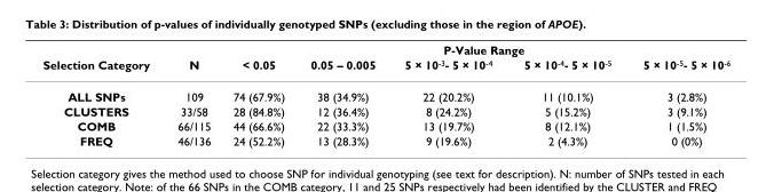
<table><thead><tr><td rowspan="2">Selection Category</td><td rowspan="2">N</td><td colspan="5">P-Value Range</td></tr><tr><td>&lt; 0.05</td><td>0.05 – 0.005</td><td>5 × 10<sup>-3</sup>- 5 × 10<sup>-4</sup></td><td>5 × 10<sup>-4</sup>- 5 × 10<sup>-5</sup></td><td>5 × 10<sup>-5</sup>- 5 × 10<sup>-6</sup></td></tr></thead><tbody><tr><td>ALL SNPs</td><td>109</td><td>74 (67.9%)</td><td>38 (34.9%)</td><td>22 (20.2%)</td><td>11 (10.1%)</td><td>3 (2.8%)</td></tr><tr><td>CLUSTERS</td><td>33/58</td><td>28 (84.8%)</td><td>12 (36.4%)</td><td>8 (24.2%)</td><td>5 (15.2%)</td><td>3 (9.1%)</td></tr><tr><td>COMB</td><td>66/115</td><td>44 (66.6%)</td><td>22 (33.3%)</td><td>13 (19.7%)</td><td>8 (12.1%)</td><td>1 (1.5%)</td></tr><tr><td>FREQ</td><td>46/136</td><td>24 (52.2%)</td><td>13 (28.3%)</td><td>9 (19.6%)</td><td>2 (4.3%)</td><td>0 (0%)</td></tr></tbody></table>